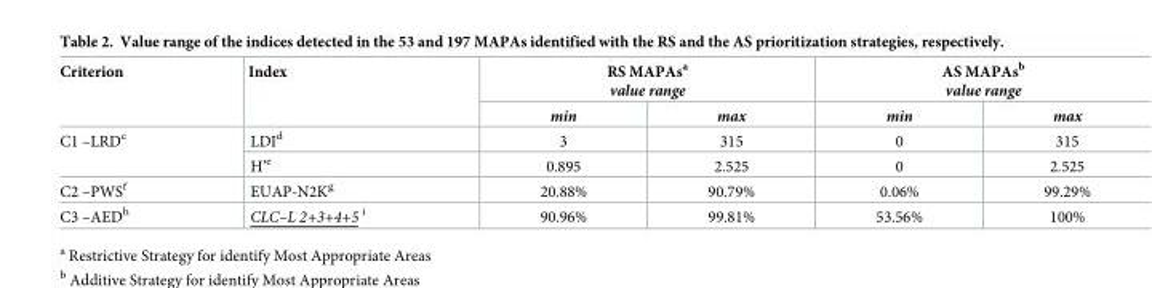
<table><thead><tr><td rowspan="2">Criterion</td><td rowspan="2">Index</td><td colspan="2">RS MAPAs<sup>a</sup> value range</td><td colspan="2">AS MAPAs<sup>b</sup> value range</td></tr><tr><td>min</td><td>max</td><td>min</td><td>max</td></tr></thead><tbody><tr><td rowspan="2">C1 –LRD<sup>c</sup></td><td>LDI<sup>d</sup></td><td>3</td><td>315</td><td>0</td><td>315</td></tr><tr><td>H’<sup>e</sup></td><td>0.895</td><td>2.525</td><td>0</td><td>2.525</td></tr><tr><td>C2 –PWS<sup>f</sup></td><td>EUAP-N2K<sup>g</sup></td><td>20.88%</td><td>90.79%</td><td>0.06%</td><td>99.29%</td></tr><tr><td>C3 –AED<sup>h</sup></td><td>CLC–L 2+3+4+5 <sup>i</sup></td><td>90.96%</td><td>99.81%</td><td>53.56%</td><td>100%</td></tr></tbody></table>